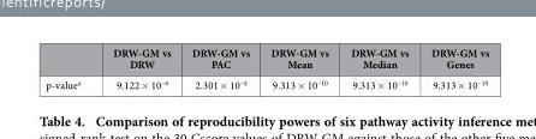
<table><thead><tr><td></td><td>DRW-GM vs DRW</td><td>DRW-GM vs PAC</td><td>DRW-GM vs Mean</td><td>DRW-GM vs Median</td><td>DRW-GM vs Genes</td></tr></thead><tbody><tr><td>p-value<sup>a</sup></td><td>9.122 × 10<sup>–6</sup></td><td>2.301 × 10<sup>–4</sup></td><td>9.313 × 10<sup>–10</sup></td><td>9.313 × 10<sup>–10</sup></td><td>9.313 × 10<sup>–10</sup></td></tr></tbody></table>